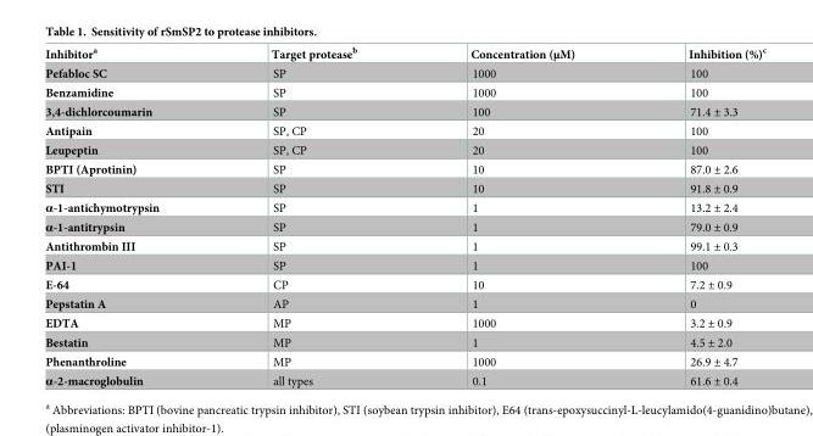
<table><thead><tr><td>Inhibitor<sup>a</sup></td><td>Target protease<sup>b</sup></td><td>Concentration (μM)</td><td>Inhibition (%)<sup>c</sup></td></tr></thead><tbody><tr><td>Pefabloc SC</td><td>SP</td><td>1000</td><td>100</td></tr><tr><td>Benzamidine</td><td>SP</td><td>1000</td><td>100</td></tr><tr><td>3,4-dichlorcoumarin</td><td>SP</td><td>100</td><td>71.4 ± 3.3</td></tr><tr><td>Antipain</td><td>SP, CP</td><td>20</td><td>100</td></tr><tr><td>Leupeptin</td><td>SP, CP</td><td>20</td><td>100</td></tr><tr><td>BPTI (Aprotinin)</td><td>SP</td><td>10</td><td>87.0 ± 2.6</td></tr><tr><td>STI</td><td>SP</td><td>10</td><td>91.8 ± 0.9</td></tr><tr><td>α-1-antichymotrypsin</td><td>SP</td><td>1</td><td>13.2 ± 2.4</td></tr><tr><td>α-1-antitrypsin</td><td>SP</td><td>1</td><td>79.0 ± 0.9</td></tr><tr><td>Antithrombin III</td><td>SP</td><td>1</td><td>99.1 ± 0.3</td></tr><tr><td>PAI-1</td><td>SP</td><td>1</td><td>100</td></tr><tr><td>E-64</td><td>CP</td><td>10</td><td>7.2 ± 0.9</td></tr><tr><td>Pepstatin A</td><td>AP</td><td>1</td><td>0</td></tr><tr><td>EDTA</td><td>MP</td><td>1000</td><td>3.2 ± 0.9</td></tr><tr><td>Bestatin</td><td>MP</td><td>1</td><td>4.5 ± 2.0</td></tr><tr><td>Phenanthroline</td><td>MP</td><td>1000</td><td>26.9 ± 4.7</td></tr><tr><td>α-2-macroglobulin</td><td>all types</td><td>0.1</td><td>61.6 ± 0.4</td></tr></tbody></table>